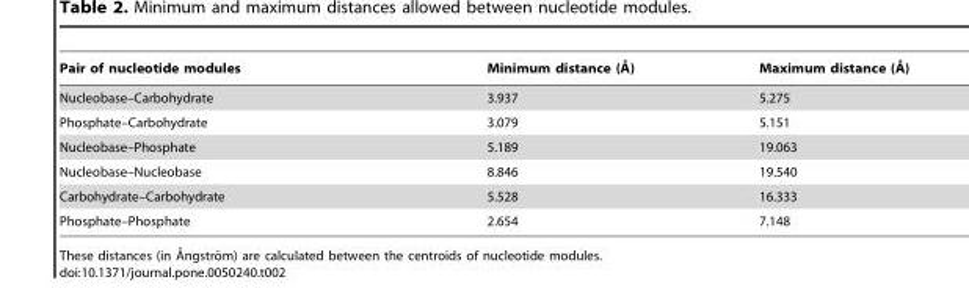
<table><thead><tr><td>Pair of nucleotide modules</td><td>Minimum distance (A˚ )</td><td>Maximum distance (A˚)</td></tr></thead><tbody><tr><td>Nucleobase–Carbohydrate</td><td>3.937</td><td>5.275</td></tr><tr><td>Phosphate–Carbohydrate</td><td>3.079</td><td>5.151</td></tr><tr><td>Nucleobase–Phosphate</td><td>5.189</td><td>19.063</td></tr><tr><td>Nucleobase–Nucleobase</td><td>8.846</td><td>19.540</td></tr><tr><td>Carbohydrate–Carbohydrate</td><td>5.528</td><td>16.333</td></tr><tr><td>Phosphate–Phosphate</td><td>2.654</td><td>7.148</td></tr></tbody></table>